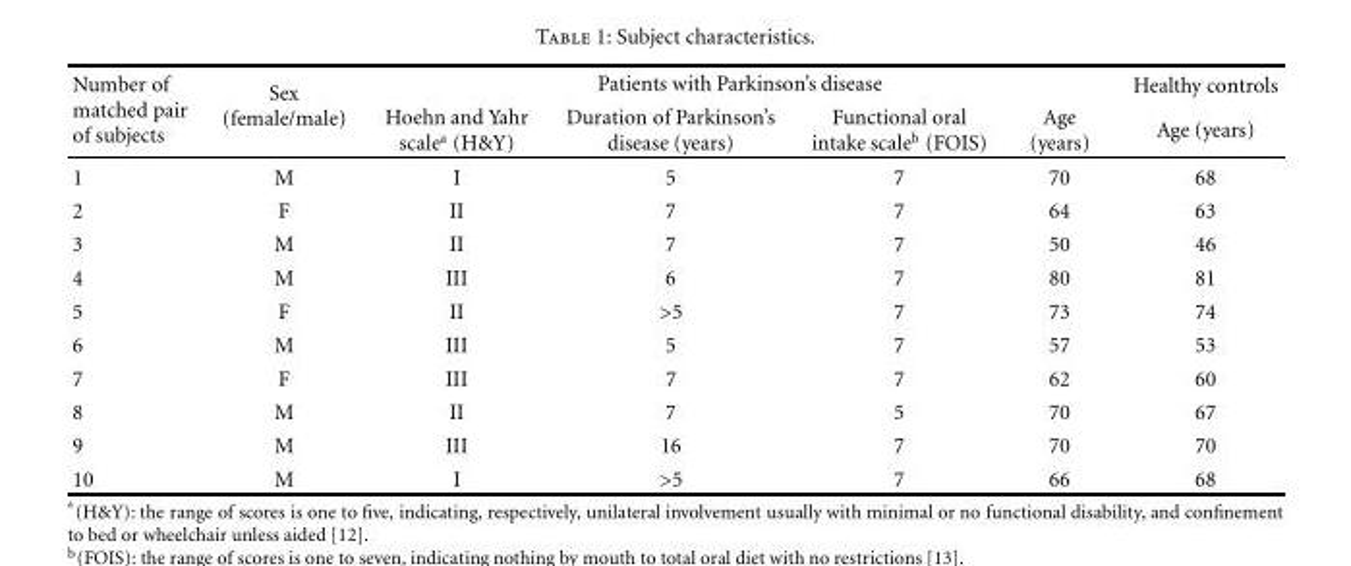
<table><thead><tr><td rowspan="2">Number of matched pair of subjects</td><td rowspan="2">Sex (female/male)</td><td colspan="4">Patients with Parkinson’s disease</td><td rowspan="2">Healthy controls Age (years)</td></tr><tr><td>Hoehn and Yahr scale<sup>a</sup> (H&amp;Y)</td><td>Duration of Parkinson’s disease (years)</td><td>Functional oral intake scale<sup>b</sup> (FOIS)</td><td>Age (years)</td></tr></thead><tbody><tr><td>1</td><td>M</td><td>I</td><td>5</td><td>7</td><td>70</td><td>68</td></tr><tr><td>2</td><td>F</td><td>II</td><td>7</td><td>7</td><td>64</td><td>63</td></tr><tr><td>3</td><td>M</td><td>II</td><td>7</td><td>7</td><td>50</td><td>46</td></tr><tr><td>4</td><td>M</td><td>III</td><td>6</td><td>7</td><td>80</td><td>81</td></tr><tr><td>5</td><td>F</td><td>II</td><td>&gt;5</td><td>7</td><td>73</td><td>74</td></tr><tr><td>6</td><td>M</td><td>III</td><td>5</td><td>7</td><td>57</td><td>53</td></tr><tr><td>7</td><td>F</td><td>III</td><td>7</td><td>7</td><td>62</td><td>60</td></tr><tr><td>8</td><td>M</td><td>II</td><td>7</td><td>5</td><td>70</td><td>67</td></tr><tr><td>9</td><td>M</td><td>III</td><td>16</td><td>7</td><td>70</td><td>70</td></tr><tr><td>10</td><td>M</td><td>I</td><td>&gt;5</td><td>7</td><td>66</td><td>68</td></tr></tbody></table>